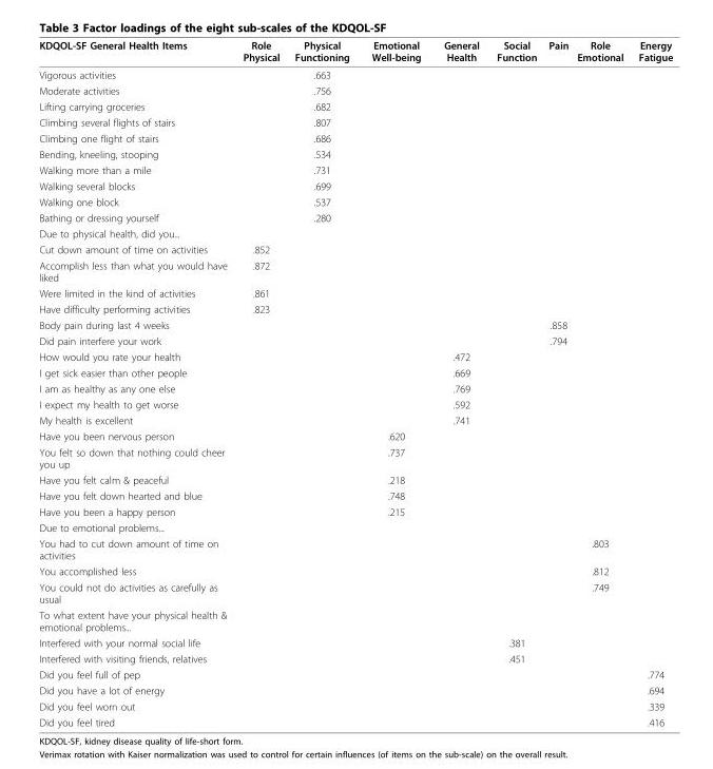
<table><thead><tr><td>KDQOL-SF General Health Items</td><td>Role Physical</td><td>Physical Functioning</td><td>Emotional Well-being</td><td>General Health</td><td>Social Function</td><td>Pain</td><td>Role Emotional</td><td>Energy Fatigue</td></tr></thead><tbody><tr><td>Vigorous activities</td><td></td><td>.663</td><td></td><td></td><td></td><td></td><td></td><td></td></tr><tr><td>Moderate activities</td><td></td><td>.756</td><td></td><td></td><td></td><td></td><td></td><td></td></tr><tr><td>Lifting carrying groceries</td><td></td><td>.682</td><td></td><td></td><td></td><td></td><td></td><td></td></tr><tr><td>Climbing several flights of stairs</td><td></td><td>.807</td><td></td><td></td><td></td><td></td><td></td><td></td></tr><tr><td>Climbing one flight of stairs</td><td></td><td>.686</td><td></td><td></td><td></td><td></td><td></td><td></td></tr><tr><td>Bending, kneeling, stooping</td><td></td><td>.534</td><td></td><td></td><td></td><td></td><td></td><td></td></tr><tr><td>Walking more than a mile</td><td></td><td>.731</td><td></td><td></td><td></td><td></td><td></td><td></td></tr><tr><td>Walking several blocks</td><td></td><td>.699</td><td></td><td></td><td></td><td></td><td></td><td></td></tr><tr><td>Walking one block</td><td></td><td>.537</td><td></td><td></td><td></td><td></td><td></td><td></td></tr><tr><td>Bathing or dressing yourself</td><td></td><td>.280</td><td></td><td></td><td></td><td></td><td></td><td></td></tr><tr><td colspan="9">Due to physical health, did you...</td></tr><tr><td>Cut down amount of time on activities</td><td>.852</td><td></td><td></td><td></td><td></td><td></td><td></td><td></td></tr><tr><td>Accomplish less than what you would have liked</td><td>.872</td><td></td><td></td><td></td><td></td><td></td><td></td><td></td></tr><tr><td>Were limited in the kind of activities</td><td>.861</td><td></td><td></td><td></td><td></td><td></td><td></td><td></td></tr><tr><td>Have difficulty performing activities</td><td>.823</td><td></td><td></td><td></td><td></td><td></td><td></td><td></td></tr><tr><td>Body pain during last 4 weeks</td><td></td><td></td><td></td><td></td><td></td><td>.858</td><td></td><td></td></tr><tr><td>Did pain interfere your work</td><td></td><td></td><td></td><td></td><td></td><td>.794</td><td></td><td></td></tr><tr><td>How would you rate your health</td><td></td><td></td><td></td><td>.472</td><td></td><td></td><td></td><td></td></tr><tr><td>I get sick easier than other people</td><td></td><td></td><td></td><td>.669</td><td></td><td></td><td></td><td></td></tr><tr><td>I am as healthy as any one else</td><td></td><td></td><td></td><td>.769</td><td></td><td></td><td></td><td></td></tr><tr><td>I expect my health to get worse</td><td></td><td></td><td></td><td>.592</td><td></td><td></td><td></td><td></td></tr><tr><td>My health is excellent</td><td></td><td></td><td></td><td>.741</td><td></td><td></td><td></td><td></td></tr><tr><td>Have you been nervous person</td><td></td><td></td><td>.620</td><td></td><td></td><td></td><td></td><td></td></tr><tr><td>You felt so down that nothing could cheer you up</td><td></td><td></td><td>.737</td><td></td><td></td><td></td><td></td><td></td></tr><tr><td>Have you felt calm &amp; peaceful</td><td></td><td></td><td>.218</td><td></td><td></td><td></td><td></td><td></td></tr><tr><td>Have you felt down hearted and blue</td><td></td><td></td><td>.748</td><td></td><td></td><td></td><td></td><td></td></tr><tr><td>Have you been a happy person</td><td></td><td></td><td>.215</td><td></td><td></td><td></td><td></td><td></td></tr><tr><td colspan="9">Due to emotional problems...</td></tr><tr><td>You had to cut down amount of time on activities</td><td></td><td></td><td></td><td></td><td></td><td></td><td>.803</td><td></td></tr><tr><td>You accomplished less</td><td></td><td></td><td></td><td></td><td></td><td></td><td>.812</td><td></td></tr><tr><td>You could not do activities as carefully as usual</td><td></td><td></td><td></td><td></td><td></td><td></td><td>.749</td><td></td></tr><tr><td colspan="9">To what extent have your physical health &amp; emotional problems...</td></tr><tr><td>Interfered with your normal social life</td><td></td><td></td><td></td><td></td><td>.381</td><td></td><td></td><td></td></tr><tr><td>Interfered with visiting friends, relatives</td><td></td><td></td><td></td><td></td><td>.451</td><td></td><td></td><td></td></tr><tr><td>Did you feel full of pep</td><td></td><td></td><td></td><td></td><td></td><td></td><td></td><td>.774</td></tr><tr><td>Did you have a lot of energy</td><td></td><td></td><td></td><td></td><td></td><td></td><td></td><td>.694</td></tr><tr><td>Did you feel worn out</td><td></td><td></td><td></td><td></td><td></td><td></td><td></td><td>.339</td></tr><tr><td>Did you feel tired</td><td></td><td></td><td></td><td></td><td></td><td></td><td></td><td>.416</td></tr></tbody></table>